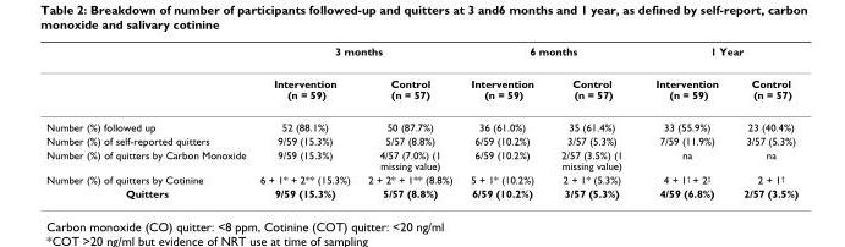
<table><thead><tr><td rowspan="2"></td><td colspan="2">3 months</td><td colspan="2">6 months</td><td colspan="2">1 Year</td></tr><tr><td>Intervention (n = 59)</td><td>Control (n = 57)</td><td>Intervention (n = 59)</td><td>Control (n = 57)</td><td>Intervention (n = 59)</td><td>Control (n = 57)</td></tr></thead><tbody><tr><td>Number (%) followed up</td><td>52 (88.1%)</td><td>50 (87.7%)</td><td>36 (61.0%)</td><td>35 (61.4%)</td><td>33 (55.9%)</td><td>23 (40.4%)</td></tr><tr><td>Number (%) of self-reported quitters</td><td>9/59 (15.3%)</td><td>5/57 (8.8%)</td><td>6/59 (10.2%)</td><td>3/57 (5.3%)</td><td>7/59 (11.9%)</td><td>3/57 (5.3%)</td></tr><tr><td>Number (%) of quitters by Carbon Monoxide</td><td>9/59 (15.3%)</td><td>4/57 (7.0%) (1 missing value)</td><td>6/59 (10.2%)</td><td>2/57 (3.5%) (1 missing value)</td><td>na</td><td>na</td></tr><tr><td>Number (%) of quitters by Cotinine</td><td>6 + 1* + 2** (15.3%)</td><td>2 + 2* + 1** (8.8%)</td><td>5 + 1* (10.2%)</td><td>2 + 1* (5.3%)</td><td>4 + 1<sup>†</sup> + 2<sup>‡</sup></td><td>2 + 1<sup>†</sup></td></tr><tr><td>Quitters</td><td>9/59 (15.3%)</td><td>5/57 (8.8%)</td><td>6/59 (10.2%)</td><td>3/57 (5.3%)</td><td>4/59 (6.8%)</td><td>2/57 (3.5%)</td></tr></tbody></table>